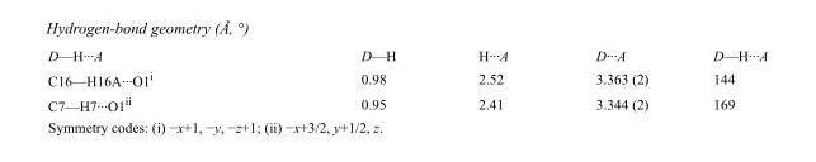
<table><tbody><tr><td>D—H···A</td><td>D—H</td><td>H···A</td><td>D···A</td><td>D—H···A</td></tr><tr><td>C16—H16A···O1<sup>i</sup></td><td>0.98</td><td>2.52</td><td>3.363 (2)</td><td>144</td></tr><tr><td>C7—H7···O1<sup>ii</sup></td><td>0.95</td><td>2.41</td><td>3.344 (2)</td><td>169</td></tr></tbody></table>